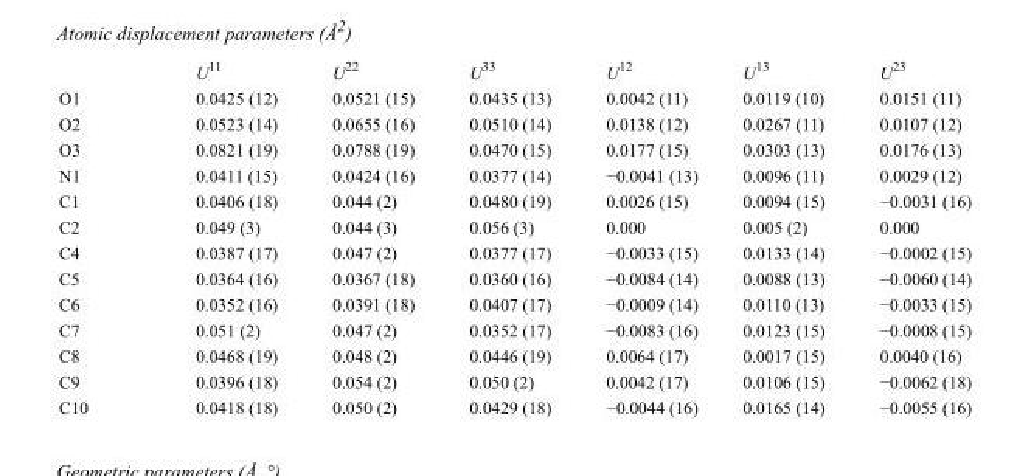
<table><thead><tr><td></td><td>U<sup>11</sup></td><td>U<sup>22</sup></td><td>U<sup>33</sup></td><td>U<sup>12</sup></td><td>U<sup>13</sup></td><td>U<sup>23</sup></td></tr></thead><tbody><tr><td>O1</td><td>0.0425 (12)</td><td>0.0521 (15)</td><td>0.0435 (13)</td><td>0.0042 (11)</td><td>0.0119 (10)</td><td>0.0151 (11)</td></tr><tr><td>O2</td><td>0.0523 (14)</td><td>0.0655 (16)</td><td>0.0510 (14)</td><td>0.0138 (12)</td><td>0.0267 (11)</td><td>0.0107 (12)</td></tr><tr><td>O3</td><td>0.0821 (19)</td><td>0.0788 (19)</td><td>0.0470 (15)</td><td>0.0177 (15)</td><td>0.0303 (13)</td><td>0.0176 (13)</td></tr><tr><td>N1</td><td>0.0411 (15)</td><td>0.0424 (16)</td><td>0.0377 (14)</td><td>−0.0041 (13)</td><td>0.0096 (11)</td><td>0.0029 (12)</td></tr><tr><td>C1</td><td>0.0406 (18)</td><td>0.044 (2)</td><td>0.0480 (19)</td><td>0.0026 (15)</td><td>0.0094 (15)</td><td>−0.0031 (16)</td></tr><tr><td>C2</td><td>0.049 (3)</td><td>0.044 (3)</td><td>0.056 (3)</td><td>0.000</td><td>0.005 (2)</td><td>0.000</td></tr><tr><td>C4</td><td>0.0387 (17)</td><td>0.047 (2)</td><td>0.0377 (17)</td><td>−0.0033 (15)</td><td>0.0133 (14)</td><td>−0.0002 (15)</td></tr><tr><td>C5</td><td>0.0364 (16)</td><td>0.0367 (18)</td><td>0.0360 (16)</td><td>−0.0084 (14)</td><td>0.0088 (13)</td><td>−0.0060 (14)</td></tr><tr><td>C6</td><td>0.0352 (16)</td><td>0.0391 (18)</td><td>0.0407 (17)</td><td>−0.0009 (14)</td><td>0.0110 (13)</td><td>−0.0033 (15)</td></tr><tr><td>C7</td><td>0.051 (2)</td><td>0.047 (2)</td><td>0.0352 (17)</td><td>−0.0083 (16)</td><td>0.0123 (15)</td><td>−0.0008 (15)</td></tr><tr><td>C8</td><td>0.0468 (19)</td><td>0.048 (2)</td><td>0.0446 (19)</td><td>0.0064 (17)</td><td>0.0017 (15)</td><td>0.0040 (16)</td></tr><tr><td>C9</td><td>0.0396 (18)</td><td>0.054 (2)</td><td>0.050 (2)</td><td>0.0042 (17)</td><td>0.0106 (15)</td><td>−0.0062 (18)</td></tr><tr><td>C10</td><td>0.0418 (18)</td><td>0.050 (2)</td><td>0.0429 (18)</td><td>−0.0044 (16)</td><td>0.0165 (14)</td><td>−0.0055 (16)</td></tr></tbody></table>